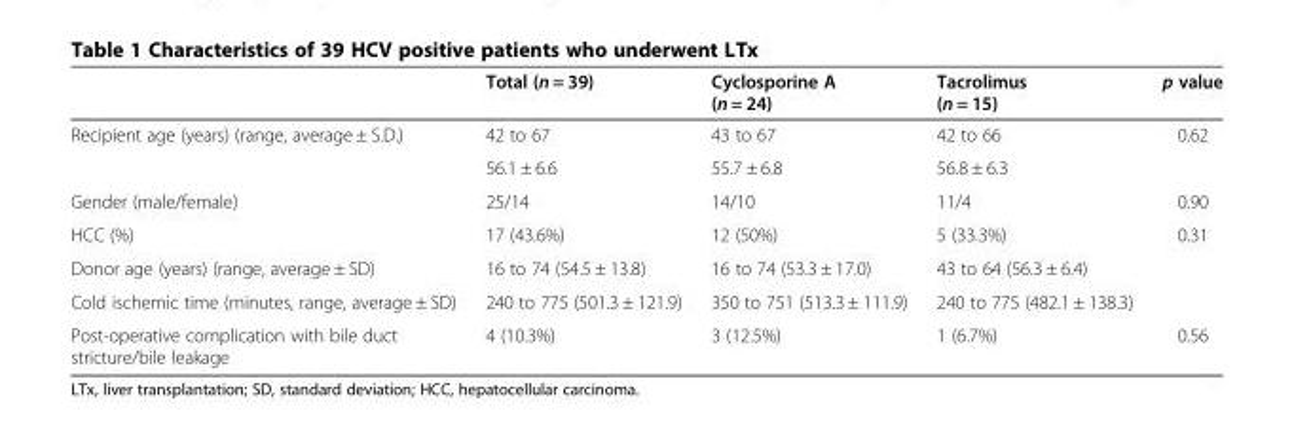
<table><thead><tr><td></td><td>Total (n = 39)</td><td>Cyclosporine A (n = 24)</td><td>Tacrolimus (n = 15)</td><td>p value</td></tr></thead><tbody><tr><td rowspan="2">Recipient age (years) (range, average ± S.D.)</td><td>42 to 67</td><td>43 to 67</td><td>42 to 66</td><td rowspan="2">0.62</td></tr><tr><td>56.1 ± 6.6</td><td>55.7 ± 6.8</td><td>56.8 ± 6.3</td></tr><tr><td>Gender (male/female)</td><td>25/14</td><td>14/10</td><td>11/4</td><td>0.90</td></tr><tr><td>HCC (%)</td><td>17 (43.6%)</td><td>12 (50%)</td><td>5 (33.3%)</td><td>0.31</td></tr><tr><td>Donor age (years) (range, average ± SD)</td><td>16 to 74 (54.5 ± 13.8)</td><td>16 to 74 (53.3 ± 17.0)</td><td>43 to 64 (56.3 ± 6.4)</td><td rowspan="2"></td></tr><tr><td>Cold ischemic time (minutes, range, average ± SD)</td><td>240 to 775 (501.3 ± 121.9)</td><td>350 to 751 (513.3 ± 111.9)</td><td>240 to 775 (482.1 ± 138.3)</td></tr><tr><td>Post-operative complication with bile duct stricture/bile leakage</td><td>4 (10.3%)</td><td>3 (12.5%)</td><td>1 (6.7%)</td><td>0.56</td></tr></tbody></table>